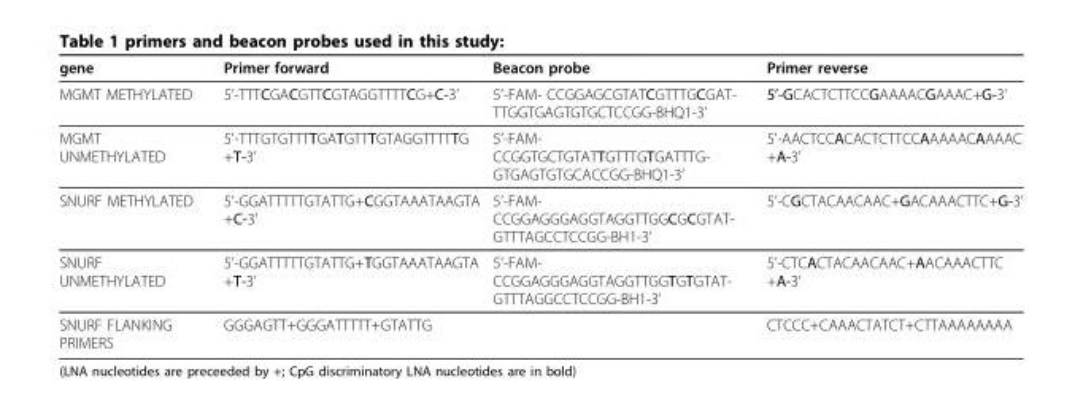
<table><thead><tr><td>gene</td><td>Primer forward</td><td>Beacon probe</td><td>Primer reverse</td></tr></thead><tbody><tr><td>MGMT METHYLATED</td><td>5’-TTTCGACGTTCGTAGGTTTTCG+C-3’</td><td>5’-FAM- CCGGAGCGTATCGTTTGCGAT- TTGGTGAGTGTGCTCCGG-BHQ1-3’</td><td>5’-GCACTCTTCCGAAAACGAAAC+G-3’</td></tr><tr><td>MGMT UNMETHYLATED</td><td>5’-TTTGTGTTTTGATGTTTGTAGGTTTTTG +T-3’</td><td>5’-FAM- CCGGTGCTGTATTGTTTGTGATTTG- GTGAGTGTGCACCGG-BHQ1-3’</td><td>5’-AACTCCACACTCTTCCAAAAACAAAAC +A-3’</td></tr><tr><td>SNURF METHYLATED</td><td>5’-GGATTTTTGTATTG+CGGTAAATAAGTA +C-3’</td><td>5’-FAM- CCGGAGGGAGGTAGGTTGGCGCGTAT- GTTTAGCCTCCGG-BH1-3’</td><td>5’-CGCTACAACAAC+GACAAACTTC+G-3’</td></tr><tr><td>SNURF UNMETHYLATED</td><td>5’-GGATTTTTGTATTG+TGGTAAATAAGTA +T-3’</td><td>5’-FAM- CCGGAGGGAGGTAGGTTGGTGTGTAT- GTTTAGGCCTCCGG-BH1-3’</td><td>5’-CTCACTACAACAAC+AACAAACTTC +A-3’</td></tr><tr><td>SNURF FLANKING PRIMERS</td><td>GGGAGTT+GGGATTTTT+GTATTG</td><td></td><td>CTCCC+CAAACTATCT+CTTAAAAAAAA</td></tr></tbody></table>